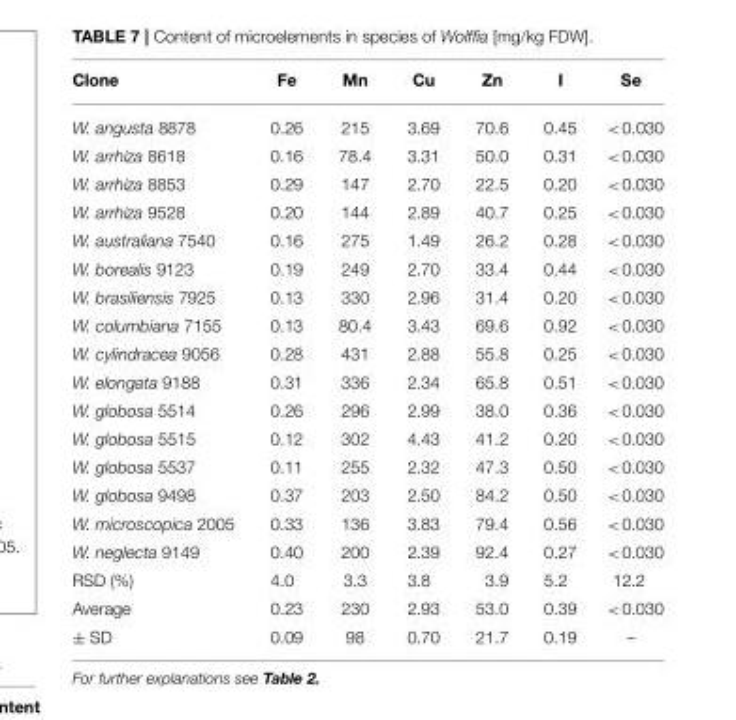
<table><thead><tr><td>Clone</td><td>Fe</td><td>Mn</td><td>Cu</td><td>Zn</td><td>I</td><td>Se</td></tr></thead><tbody><tr><td>W. angusta 8878</td><td>0.26</td><td>215</td><td>3.69</td><td>70.6</td><td>0.45</td><td>&lt;0.030</td></tr><tr><td>W. arrhiza 8618</td><td>0.16</td><td>78.4</td><td>3.31</td><td>50.0</td><td>0.31</td><td>&lt;0.030</td></tr><tr><td>W. arrhiza 8853</td><td>0.29</td><td>147</td><td>2.70</td><td>22.5</td><td>0.20</td><td>&lt;0.030</td></tr><tr><td>W. arrhiza 9528</td><td>0.20</td><td>144</td><td>2.89</td><td>40.7</td><td>0.25</td><td>&lt;0.030</td></tr><tr><td>W. australiana 7540</td><td>0.16</td><td>275</td><td>1.49</td><td>26.2</td><td>0.28</td><td>&lt;0.030</td></tr><tr><td>W. borealis 9123</td><td>0.19</td><td>249</td><td>2.70</td><td>33.4</td><td>0.44</td><td>&lt;0.030</td></tr><tr><td>W. brasiliensis 7925</td><td>0.13</td><td>330</td><td>2.96</td><td>31.4</td><td>0.20</td><td>&lt;0.030</td></tr><tr><td>W. columbiana 7155</td><td>0.13</td><td>80.4</td><td>3.43</td><td>69.6</td><td>0.92</td><td>&lt;0.030</td></tr><tr><td>W. cylindracea 9056</td><td>0.28</td><td>431</td><td>2.88</td><td>55.8</td><td>0.25</td><td>&lt;0.030</td></tr><tr><td>W. elongata 9188</td><td>0.31</td><td>336</td><td>2.34</td><td>65.8</td><td>0.51</td><td>&lt;0.030</td></tr><tr><td>W. globosa 5514</td><td>0.26</td><td>296</td><td>2.99</td><td>38.0</td><td>0.36</td><td>&lt;0.030</td></tr><tr><td>W. globosa 5515</td><td>0.12</td><td>302</td><td>4.43</td><td>41.2</td><td>0.20</td><td>&lt;0.030</td></tr><tr><td>W. globosa 5537</td><td>0.11</td><td>255</td><td>2.32</td><td>47.3</td><td>0.50</td><td>&lt;0.030</td></tr><tr><td>W. globosa 9498</td><td>0.37</td><td>203</td><td>2.50</td><td>84.2</td><td>0.50</td><td>&lt;0.030</td></tr><tr><td>W. microscopica 2005</td><td>0.33</td><td>136</td><td>3.83</td><td>79.4</td><td>0.56</td><td>&lt;0.030</td></tr><tr><td>W. neglecta 9149</td><td>0.40</td><td>200</td><td>2.39</td><td>92.4</td><td>0.27</td><td>&lt;0.030</td></tr><tr><td>RSD (%)</td><td>4.0</td><td>3.3</td><td>3.8</td><td>3.9</td><td>5.2</td><td>12.2</td></tr><tr><td>Average</td><td>0.23</td><td>230</td><td>2.93</td><td>53.0</td><td>0.39</td><td>&lt;0.030</td></tr><tr><td>± SD</td><td>0.09</td><td>98</td><td>0.70</td><td>21.7</td><td>0.19</td><td>–</td></tr></tbody></table>